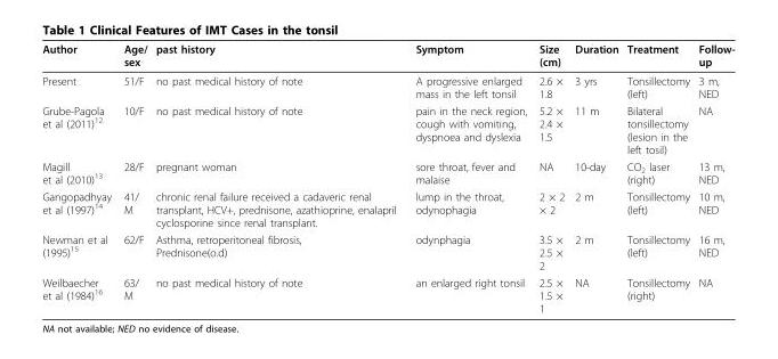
<table><thead><tr><td>Author</td><td>Age/ sex</td><td>past history</td><td>Symptom</td><td>Size (cm)</td><td>Duration</td><td>Treatment</td><td>Follow- up</td></tr></thead><tbody><tr><td>Present</td><td>51/F</td><td>no past medical history of note</td><td>A progressive enlarged mass in the left tonsil</td><td>2.6 × 1.8</td><td>3 yrs</td><td>Tonsillectomy (left)</td><td>3 m, NED</td></tr><tr><td>Grube-Pagola et al (2011)<sup>12</sup></td><td>10/F</td><td>no past medical history of note</td><td>pain in the neck region, cough with vomiting, dyspnoea and dyslexia</td><td>5.2 × 2.4 × 1.5</td><td>11 m</td><td>Bilateral tonsillectomy (lesion in the left tosil)</td><td>NA</td></tr><tr><td>Magill et al (2010)<sup>13</sup></td><td>28/F</td><td>pregnant woman</td><td>sore throat, fever and malaise</td><td>NA</td><td>10-day</td><td>CO<sub>2</sub> laser (right)</td><td>13 m, NED</td></tr><tr><td>Gangopadhyay et al (1997)<sup>14</sup></td><td>41/ M</td><td>chronic renal failure received a cadaveric renal transplant, HCV+, prednisone, azathioprine, enalapril cyclosporine since renal transplant.</td><td>lump in the throat, odynophagia</td><td>2 × 2 × 2</td><td>2 m</td><td>Tonsillectomy (left)</td><td>10 m, NED</td></tr><tr><td>Newman et al (1995)<sup>15</sup></td><td>62/F</td><td>Asthma, retroperitoneal fibrosis, Prednisone(o.d)</td><td>odynphagia</td><td>3.5 × 2.5 × 2</td><td>2 m</td><td>Tonsillectomy (left)</td><td>16 m, NED</td></tr><tr><td>Weilbaecher et al (1984)<sup>16</sup></td><td>63/ M</td><td>no past medical history of note</td><td>an enlarged right tonsil</td><td>2.5 × 1.5 × 1</td><td>NA</td><td>Tonsillectomy (right)</td><td>NA</td></tr></tbody></table>